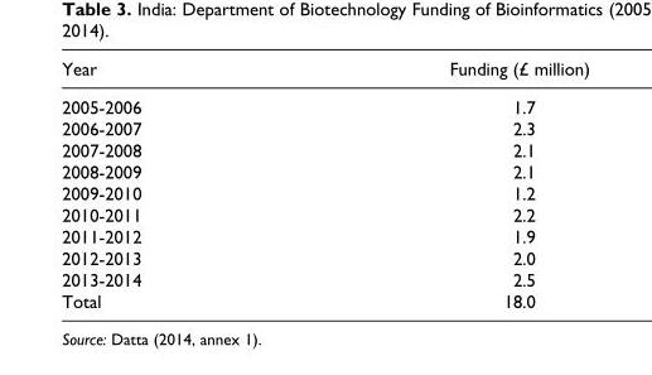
<table><thead><tr><td>Year</td><td>Funding (£ million)</td></tr></thead><tbody><tr><td>2005-2006</td><td>1.7</td></tr><tr><td>2006-2007</td><td>2.3</td></tr><tr><td>2007-2008</td><td>2.1</td></tr><tr><td>2008-2009</td><td>2.1</td></tr><tr><td>2009-2010</td><td>1.2</td></tr><tr><td>2010-2011</td><td>2.2</td></tr><tr><td>2011-2012</td><td>1.9</td></tr><tr><td>2012-2013</td><td>2.0</td></tr><tr><td>2013-2014</td><td>2.5</td></tr><tr><td>Total</td><td>18.0</td></tr></tbody></table>